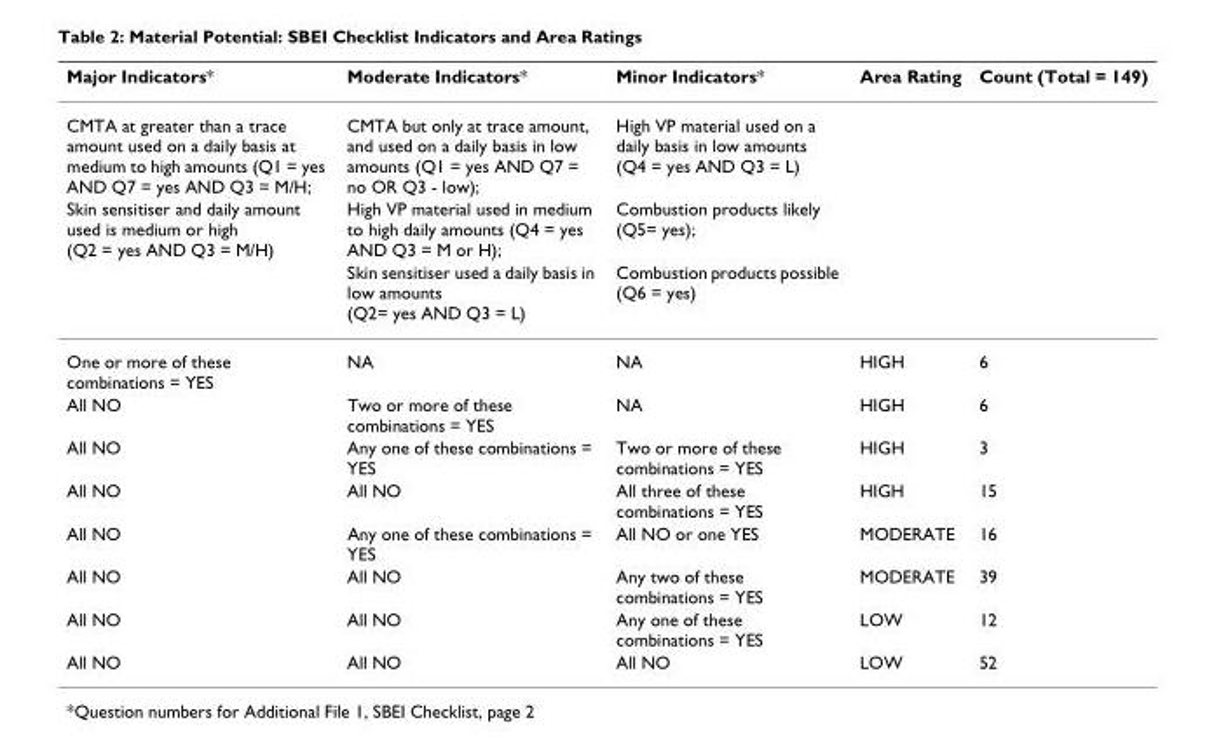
<table><thead><tr><td>Major Indicators*</td><td>Moderate Indicators*</td><td>Minor Indicators*</td><td>Area Rating</td><td>Count (Total = 149)</td></tr></thead><tbody><tr><td>CMTA at greater than a trace amount used on a daily basis at medium to high amounts (Q1 = yes AND Q7 = yes AND Q3 = M/H;</td><td>CMTA but only at trace amount, and used on a daily basis in low amounts (Q1 = yes AND Q7 = no OR Q3 - low);</td><td>High VP material used on a daily basis in low amounts (Q4 = yes AND Q3 = L)</td><td></td><td></td></tr><tr><td rowspan="2">Skin sensitiser and daily amount used is medium or high (Q2 = yes AND Q3 = M/H)</td><td>High VP material used in medium to high daily amounts (Q4 = yes AND Q3 = M or H);</td><td>Combustion products likely (Q5= yes);</td><td></td><td></td></tr><tr><td>Skin sensitiser used a daily basis in low amounts (Q2= yes AND Q3 = L)</td><td>Combustion products possible (Q6 = yes)</td><td></td><td></td></tr><tr><td>One or more of these combinations = YES</td><td>NA</td><td>NA</td><td>HIGH</td><td>6</td></tr><tr><td>All NO</td><td>Two or more of these combinations = YES</td><td>NA</td><td>HIGH</td><td>6</td></tr><tr><td>All NO</td><td>Any one of these combinations = YES</td><td>Two or more of these combinations = YES</td><td>HIGH</td><td>3</td></tr><tr><td>All NO</td><td>All NO</td><td>All three of these combinations = YES</td><td>HIGH</td><td>15</td></tr><tr><td>All NO</td><td>Any one of these combinations = YES</td><td>All NO or one YES</td><td>MODERATE</td><td>16</td></tr><tr><td>All NO</td><td>All NO</td><td>Any two of these combinations = YES</td><td>MODERATE</td><td>39</td></tr><tr><td>All NO</td><td>All NO</td><td>Any one of these combinations = YES</td><td>LOW</td><td>12</td></tr><tr><td>All NO</td><td>All NO</td><td>All NO</td><td>LOW</td><td>52</td></tr></tbody></table>